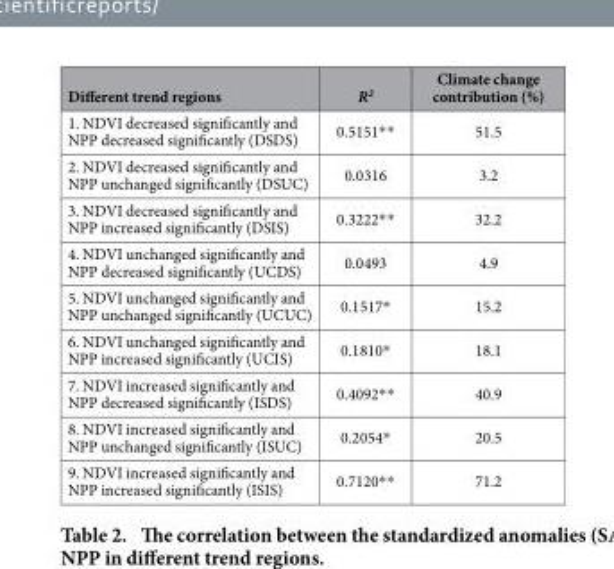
<table><thead><tr><td>Different trend regions</td><td>R<sup>2</sup></td><td>Climate change contribution (%)</td></tr></thead><tbody><tr><td>1. NDVI decreased significantly and NPP decreased significantly (DSDS)</td><td>0.5151* *</td><td>51.5</td></tr><tr><td>2. NDVI decreased significantly and NPP unchanged significantly (DSUC)</td><td>0.0316</td><td>3.2</td></tr><tr><td>3. NDVI decreased significantly and NPP increased significantly (DSIS)</td><td>0.3222* *</td><td>32.2</td></tr><tr><td>4. NDVI unchanged significantly and NPP decreased significantly (UCDS)</td><td>0.0493</td><td>4.9</td></tr><tr><td>5. NDVI unchanged significantly and NPP unchanged significantly (UCUC)</td><td>0.1517*</td><td>15.2</td></tr><tr><td>6. NDVI unchanged significantly and NPP increased significantly (UCIS)</td><td>0.1810*</td><td>18.1</td></tr><tr><td>7. NDVI increased significantly and NPP decreased significantly (ISDS)</td><td>0.4092* *</td><td>40.9</td></tr><tr><td>8. NDVI increased significantly and NPP unchanged significantly (ISUC)</td><td>0.2054*</td><td>20.5</td></tr><tr><td>9. NDVI increased significantly and NPP increased significantly (ISIS)</td><td>0.7120* *</td><td>71.2</td></tr></tbody></table>